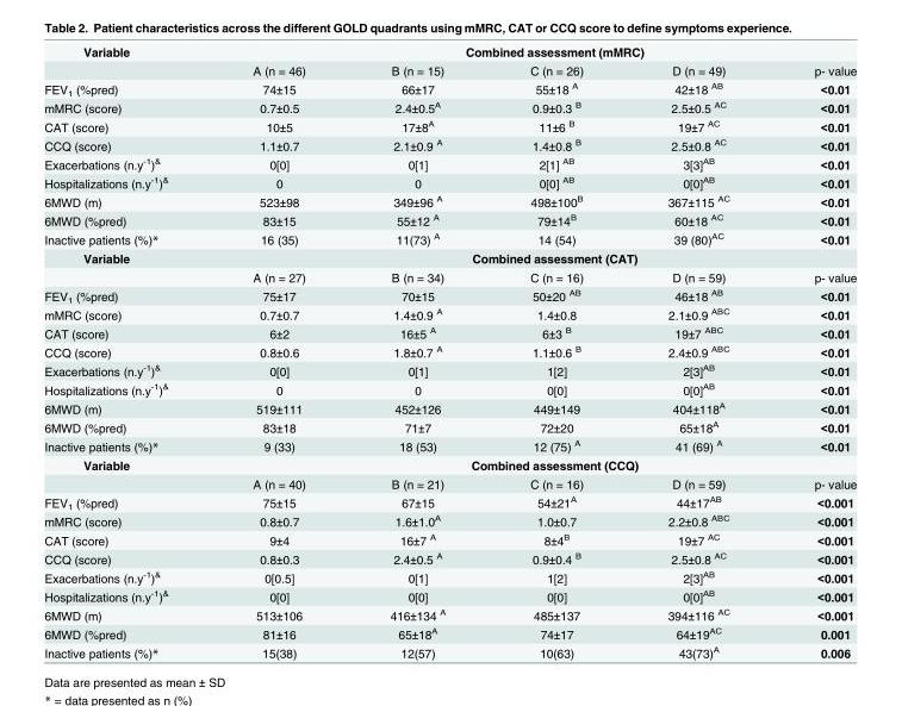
<table><tbody><tr><td rowspan="2">Variable</td><td colspan="5">Combined assessment (mMRC)</td></tr><tr><td>A (n = 46)</td><td>B (n = 15)</td><td>C (n = 26)</td><td>D (n = 49)</td><td>p- value</td></tr><tr><td>FEV<sub>1</sub> (%pred)</td><td>74±15</td><td>66±17</td><td>55±18 <sup>A</sup></td><td>42±18 <sup>AB</sup></td><td>&lt;0.01</td></tr><tr><td>mMRC (score)</td><td>0.7±0.5</td><td>2.4±0.5<sup>A</sup></td><td>0.9±0.3 <sup>B</sup></td><td>2.5±0.5 <sup>AC</sup></td><td>&lt;0.01</td></tr><tr><td>CAT (score)</td><td>10±5</td><td>17±8<sup>A</sup></td><td>11±6 <sup>B</sup></td><td>19±7 <sup>AC</sup></td><td>&lt;0.01</td></tr><tr><td>CCQ (score)</td><td>1.1±0.7</td><td>2.1±0.9 <sup>A</sup></td><td>1.4±0.8 <sup>B</sup></td><td>2.5±0.8 <sup>AC</sup></td><td>&lt;0.01</td></tr><tr><td>Exacerbations (n.y<sup>-1</sup>)<sup>&amp;</sup></td><td>0[0]</td><td>0[1]</td><td>2[1] <sup>AB</sup></td><td>3[3]<sup>AB</sup></td><td>&lt;0.01</td></tr><tr><td>Hospitalizations (n.y<sup>-1</sup>)<sup>&amp;</sup></td><td>0</td><td>0</td><td>0[0] <sup>AB</sup></td><td>0[0]<sup>AB</sup></td><td>&lt;0.01</td></tr><tr><td>6MWD (m)</td><td>523±98</td><td>349±96 <sup>A</sup></td><td>498±100<sup>B</sup></td><td>367±115 <sup>AC</sup></td><td>&lt;0.01</td></tr><tr><td>6MWD (%pred)</td><td>83±15</td><td>55±12 <sup>A</sup></td><td>79±14<sup>B</sup></td><td>60±18 <sup>AC</sup></td><td>&lt;0.01</td></tr><tr><td>Inactive patients (%)*</td><td>16 (35)</td><td>11(73) <sup>A</sup></td><td>14 (54)</td><td>39 (80)<sup>AC</sup></td><td>&lt;0.01</td></tr><tr><td rowspan="2">Variable</td><td colspan="5">Combined assessment (CAT)</td></tr><tr><td>A (n = 27)</td><td>B (n = 34)</td><td>C (n = 16)</td><td>D (n = 59)</td><td>p- value</td></tr><tr><td>FEV<sub>1</sub> (%pred)</td><td>75±17</td><td>70±15</td><td>50±20 <sup>AB</sup></td><td>46±18 <sup>AB</sup></td><td>&lt;0.01</td></tr><tr><td>mMRC (score)</td><td>0.7±0.7</td><td>1.4±0.9 <sup>A</sup></td><td>1.4±0.8</td><td>2.1±0.9 <sup>ABC</sup></td><td>&lt;0.01</td></tr><tr><td>CAT (score)</td><td>6±2</td><td>16±5 <sup>A</sup></td><td>6±3 <sup>B</sup></td><td>19±7 <sup>ABC</sup></td><td>&lt;0.01</td></tr><tr><td>CCQ (score)</td><td>0.8±0.6</td><td>1.8±0.7 <sup>A</sup></td><td>1.1±0.6 <sup>B</sup></td><td>2.4±0.9 <sup>ABC</sup></td><td>&lt;0.01</td></tr><tr><td>Exacerbations (n.y<sup>-1</sup>)<sup>&amp;</sup></td><td>0[0]</td><td>0[1]</td><td>1[2]</td><td>2[3]<sup>AB</sup></td><td>&lt;0.01</td></tr><tr><td>Hospitalizations (n.y<sup>-1</sup>)<sup>&amp;</sup></td><td>0</td><td>0</td><td>0[0]</td><td>0[0]<sup>AB</sup></td><td>&lt;0.01</td></tr><tr><td>6MWD (m)</td><td>519±111</td><td>452±126</td><td>449±149</td><td>404±118<sup>A</sup></td><td>&lt;0.01</td></tr><tr><td>6MWD (%pred)</td><td>83±18</td><td>71±7</td><td>72±20</td><td>65±18<sup>A</sup></td><td>&lt;0.01</td></tr><tr><td>Inactive patients (%)*</td><td>9 (33)</td><td>18 (53)</td><td>12 (75) <sup>A</sup></td><td>41 (69) <sup>A</sup></td><td>&lt;0.01</td></tr><tr><td rowspan="2">Variable</td><td colspan="5">Combined assessment (CCQ)</td></tr><tr><td>A (n = 40)</td><td>B (n = 21)</td><td>C (n = 16)</td><td>D (n = 59)</td><td>p- value</td></tr><tr><td>FEV<sub>1</sub> (%pred)</td><td>75±15</td><td>67±15</td><td>54±21<sup>A</sup></td><td>44±17<sup>AB</sup></td><td>&lt;0.001</td></tr><tr><td>mMRC (score)</td><td>0.8±0.7</td><td>1.6±1.0<sup>A</sup></td><td>1.0±0.7</td><td>2.2±0.8 <sup>ABC</sup></td><td>&lt;0.001</td></tr><tr><td>CAT (score)</td><td>9±4</td><td>16±7 <sup>A</sup></td><td>8±4<sup>B</sup></td><td>19±7 <sup>AC</sup></td><td>&lt;0.001</td></tr><tr><td>CCQ (score)</td><td>0.8±0.3</td><td>2.4±0.5 <sup>A</sup></td><td>0.9±0.4 <sup>B</sup></td><td>2.5±0.8 <sup>AC</sup></td><td>&lt;0.001</td></tr><tr><td>Exacerbations (n.y<sup>-1</sup>)<sup>&amp;</sup></td><td>0[0.5]</td><td>0[1]</td><td>1[2]</td><td>2[3]<sup>AB</sup></td><td>&lt;0.001</td></tr><tr><td>Hospitalizations (n.y<sup>-1</sup>)<sup>&amp;</sup></td><td>0[0]</td><td>0[0]</td><td>0[0]</td><td>0[0]<sup>AB</sup></td><td>&lt;0.001</td></tr><tr><td>6MWD (m)</td><td>513±106</td><td>416±134 <sup>A</sup></td><td>485±137</td><td>394±116 <sup>AC</sup></td><td>&lt;0.001</td></tr><tr><td>6MWD (%pred)</td><td>81±16</td><td>65±18<sup>A</sup></td><td>74±17</td><td>64±19<sup>AC</sup></td><td>0.001</td></tr><tr><td>Inactive patients (%)*</td><td>15(38)</td><td>12(57)</td><td>10(63)</td><td>43(73)<sup>A</sup></td><td>0.006</td></tr></tbody></table>